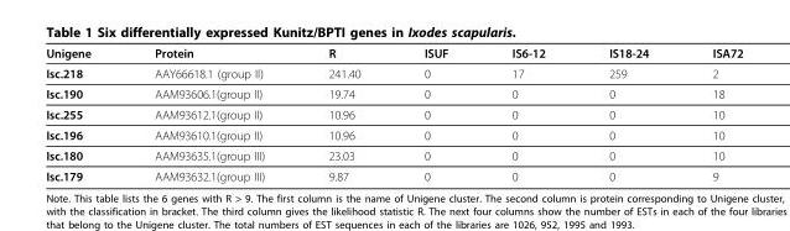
<table><thead><tr><td>Unigene</td><td>Protein</td><td>R</td><td>ISUF</td><td>IS6-12</td><td>IS18-24</td><td>ISA72</td></tr></thead><tbody><tr><td>Isc.218</td><td>AAY66618.1 (group II)</td><td>241.40</td><td>0</td><td>17</td><td>259</td><td>2</td></tr><tr><td>Isc.190</td><td>AAM93606.1(group II)</td><td>19.74</td><td>0</td><td>0</td><td>0</td><td>18</td></tr><tr><td>Isc.255</td><td>AAM93612.1(group II)</td><td>10.96</td><td>0</td><td>0</td><td>0</td><td>10</td></tr><tr><td>Isc.196</td><td>AAM93610.1(group II)</td><td>10.96</td><td>0</td><td>0</td><td>0</td><td>10</td></tr><tr><td>Isc.180</td><td>AAM93635.1(group III)</td><td>23.03</td><td>0</td><td>0</td><td>0</td><td>10</td></tr><tr><td>Isc.179</td><td>AAM93632.1(group III)</td><td>9.87</td><td>0</td><td>0</td><td>0</td><td>9</td></tr></tbody></table>